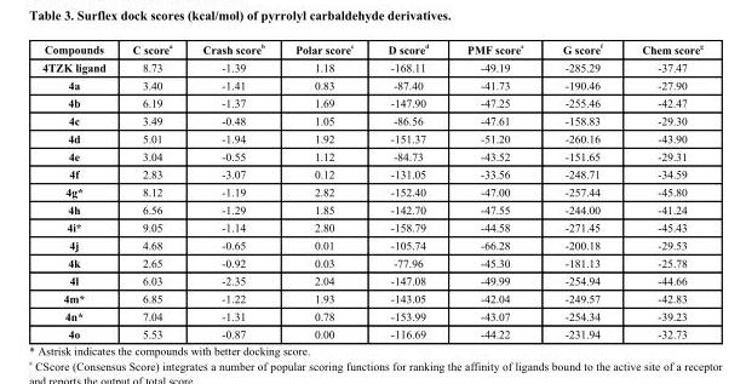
<table><thead><tr><td>Compounds</td><td>C score <sup>a</sup></td><td>Crash score <sup>b</sup></td><td>Polar score <sup>c</sup></td><td>D score <sup>d</sup></td><td>PMF score <sup>e</sup></td><td>G score <sup>f</sup></td><td>Chem score <sup>g</sup></td></tr></thead><tbody><tr><td>4TZK ligand</td><td>8.73</td><td>-1.39</td><td>1.18</td><td>-168.11</td><td>-49.19</td><td>-285.29</td><td>-37.47</td></tr><tr><td>4a</td><td>3.40</td><td>-1.41</td><td>0.83</td><td>-87.40</td><td>-41.73</td><td>-190.46</td><td>-27.90</td></tr><tr><td>4b</td><td>6.19</td><td>-1.37</td><td>1.69</td><td>-147.90</td><td>-47.25</td><td>-255.46</td><td>-42.47</td></tr><tr><td>4c</td><td>3.49</td><td>-0.48</td><td>1.05</td><td>-86.56</td><td>-47.61</td><td>-158.83</td><td>-29.30</td></tr><tr><td>4d</td><td>5.01</td><td>-1.94</td><td>1.92</td><td>-151.37</td><td>-51.20</td><td>-260.16</td><td>-43.90</td></tr><tr><td>4e</td><td>3.04</td><td>-0.55</td><td>1.12</td><td>-84.73</td><td>-43.52</td><td>-151.65</td><td>-29.31</td></tr><tr><td>4f</td><td>2.83</td><td>-3.07</td><td>0.12</td><td>-131.05</td><td>-33.56</td><td>-248.71</td><td>-34.59</td></tr><tr><td>4g*</td><td>8.12</td><td>-1.19</td><td>2.82</td><td>-152.40</td><td>-47.00</td><td>-257.44</td><td>-45.80</td></tr><tr><td>4h</td><td>6.56</td><td>-1.29</td><td>1.85</td><td>-142.70</td><td>-47.55</td><td>-244.00</td><td>-41.24</td></tr><tr><td>4i*</td><td>9.05</td><td>-1.14</td><td>2.80</td><td>-158.79</td><td>-44.58</td><td>-271.45</td><td>-45.43</td></tr><tr><td>4j</td><td>4.68</td><td>-0.65</td><td>0.01</td><td>-105.74</td><td>-66.28</td><td>-200.18</td><td>-29.53</td></tr><tr><td>4k</td><td>2.65</td><td>-0.92</td><td>0.03</td><td>-77.96</td><td>-45.30</td><td>-181.13</td><td>-25.78</td></tr><tr><td>4l</td><td>6.03</td><td>-2.35</td><td>2.04</td><td>-147.08</td><td>-49.99</td><td>-254.94</td><td>-44.66</td></tr><tr><td>4m*</td><td>6.85</td><td>-1.22</td><td>1.93</td><td>-143.05</td><td>-42.04</td><td>-249.57</td><td>-42.83</td></tr><tr><td>4n*</td><td>7.04</td><td>-1.31</td><td>0.78</td><td>-153.99</td><td>-43.07</td><td>-254.34</td><td>-39.23</td></tr><tr><td>4o</td><td>5.53</td><td>-0.87</td><td>0.00</td><td>-116.69</td><td>-44.22</td><td>-231.94</td><td>-32.73</td></tr></tbody></table>